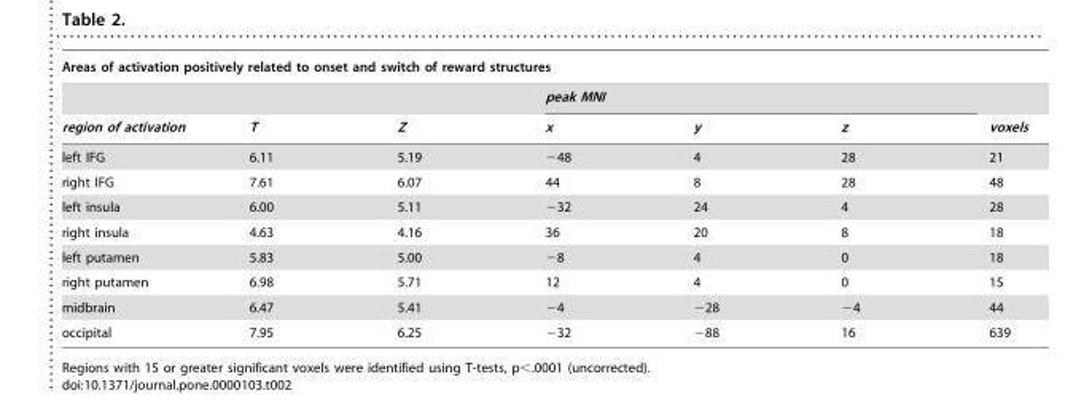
<table><thead><tr><td colspan="7">Areas of activation positively related to onset and switch of reward structures</td></tr><tr><td rowspan="2">region of activation</td><td rowspan="2">T</td><td rowspan="2">Z</td><td colspan="3">peak MNI</td><td rowspan="2">voxels</td></tr><tr><td>x</td><td>y</td><td>z</td></tr></thead><tbody><tr><td>left IFG</td><td>6.11</td><td>5.19</td><td>−48</td><td>4</td><td>28</td><td>21</td></tr><tr><td>right IFG</td><td>7.61</td><td>6.07</td><td>44</td><td>8</td><td>28</td><td>48</td></tr><tr><td>left insula</td><td>6.00</td><td>5.11</td><td>−32</td><td>24</td><td>4</td><td>28</td></tr><tr><td>right insula</td><td>4.63</td><td>4.16</td><td>36</td><td>20</td><td>8</td><td>18</td></tr><tr><td>left putamen</td><td>5.83</td><td>5.00</td><td>−8</td><td>4</td><td>0</td><td>18</td></tr><tr><td>right putamen</td><td>6.98</td><td>5.71</td><td>12</td><td>4</td><td>0</td><td>15</td></tr><tr><td>midbrain</td><td>6.47</td><td>5.41</td><td>−4</td><td>−28</td><td>−4</td><td>44</td></tr><tr><td>occipital</td><td>7.95</td><td>6.25</td><td>−32</td><td>−88</td><td>16</td><td>639</td></tr></tbody></table>